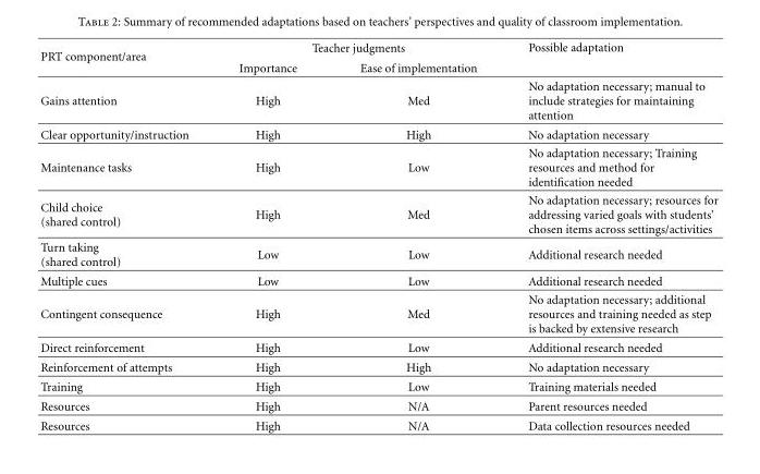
<table><thead><tr><td rowspan="2">PRT component/area</td><td colspan="2">Teacher judgments</td><td rowspan="2">Possible adaptation</td></tr><tr><td>Importance</td><td>Ease of implementation</td></tr></thead><tbody><tr><td>Gains attention</td><td>High</td><td>Med</td><td>No adaptation necessary; manual to include strategies for maintaining attention</td></tr><tr><td>Clear opportunity/instruction</td><td>High</td><td>High</td><td>No adaptation necessary</td></tr><tr><td>Maintenance tasks</td><td>High</td><td>Low</td><td>No adaptation necessary; Training resources and method for identification needed</td></tr><tr><td>Child choice (shared control)</td><td>High</td><td>Med</td><td>No adaptation necessary; resources for addressing varied goals with students’ chosen items across settings/activities</td></tr><tr><td>Turn taking (shared control)</td><td>Low</td><td>Low</td><td>Additional research needed</td></tr><tr><td>Multiple cues</td><td>Low</td><td>Low</td><td>Additional research needed</td></tr><tr><td>Contingent consequence</td><td>High</td><td>Med</td><td>No adaptation necessary; additional resources and training needed as step is backed by extensive research</td></tr><tr><td>Direct reinforcement</td><td>High</td><td>Low</td><td>Additional research needed</td></tr><tr><td>Reinforcement of attempts</td><td>High</td><td>High</td><td>No adaptation necessary</td></tr><tr><td>Training</td><td>High</td><td>Low</td><td>Training materials needed</td></tr><tr><td>Resources</td><td>High</td><td>N/A</td><td>Parent resources needed</td></tr><tr><td>Resources</td><td>High</td><td>N/A</td><td>Data collection resources needed</td></tr></tbody></table>